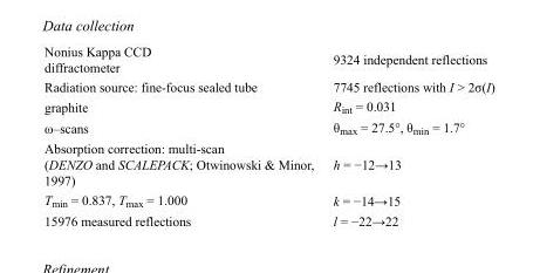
<table><tbody><tr><td>Nonius Kappa CCD diffractometer</td><td>9324 independent reflections</td></tr><tr><td>Radiation source: fine-focus sealed tube</td><td>7745 reflections with I &gt; 2σ(I)</td></tr><tr><td>graphite</td><td>R<sub>int</sub> = 0.031</td></tr><tr><td>ω–scans</td><td>θ<sub>max</sub> = 27.5°, θ<sub>min</sub> = 1.7°</td></tr><tr><td>Absorption correction: multi-scan (DENZO and SCALEPACK; Otwinowski &amp; Minor, 1997)</td><td>h = −12→13</td></tr><tr><td>T<sub>min</sub> = 0.837, T<sub>max</sub> = 1.000</td><td>k = −14→15</td></tr><tr><td>15976 measured reflections</td><td>l = −22→22</td></tr></tbody></table>